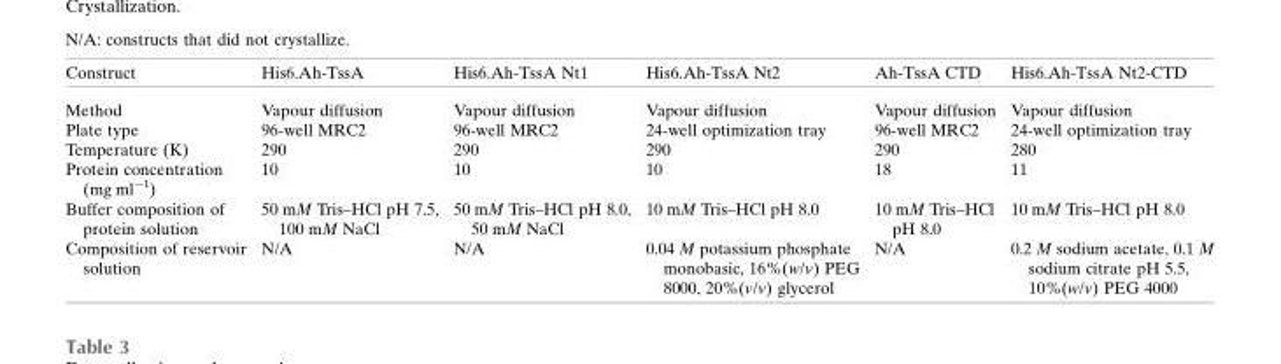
<table><thead><tr><td>Construct</td><td>His6.Ah-TssA</td><td>His6.Ah-TssA Nt1</td><td>His6.Ah-TssA Nt2</td><td>Ah-TssA CTD</td><td>His6.Ah-TssA Nt2-CTD</td></tr></thead><tbody><tr><td>Method</td><td>Vapour diffusion</td><td>Vapour diffusion</td><td>Vapour diffusion</td><td>Vapour diffusion</td><td>Vapour diffusion</td></tr><tr><td>Plate type</td><td>96-well MRC2</td><td>96-well MRC2</td><td>24-well optimization tray</td><td>96-well MRC2</td><td>24-well optimization tray</td></tr><tr><td>Temperature (K)</td><td>290</td><td>290</td><td>290</td><td>290</td><td>280</td></tr><tr><td>Protein concentration (mg ml<sup>−1</sup>)</td><td>10</td><td>10</td><td>10</td><td>18</td><td>11</td></tr><tr><td>Buffer composition of protein solution</td><td>50 mM Tris–HCl pH 7.5, 100 mM NaCl</td><td>50 mM Tris–HCl pH 8.0, 50 mM NaCl</td><td>10 mM Tris–HCl pH 8.0</td><td>10 mM Tris–HCl pH 8.0</td><td>10 mM Tris–HCl pH 8.0</td></tr><tr><td>Composition of reservoir solution</td><td>N/A</td><td>N/A</td><td>0.04 M potassium phosphate monobasic, 16%(w/v) PEG 8000, 20%(v/v) glycerol</td><td>N/A</td><td>0.2 M sodium acetate, 0.1 M sodium citrate pH 5.5, 10%(w/v) PEG 4000</td></tr></tbody></table>